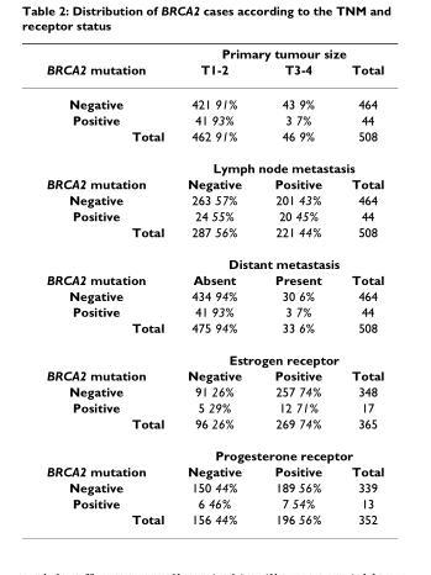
<table><thead><tr><td rowspan="2">BRCA2 mutation</td><td colspan="3">Primary tumour size</td></tr><tr><td>T1-2</td><td>T3-4</td><td>Total</td></tr></thead><tbody><tr><td>Negative</td><td>421 91%</td><td>43 9%</td><td>464</td></tr><tr><td>Positive</td><td>41 93%</td><td>3 7%</td><td>44</td></tr><tr><td rowspan="2">Total</td><td>462 91%</td><td>46 9%</td><td>508</td></tr><tr><td colspan="3">Lymph node metastasis</td></tr><tr><td>BRCA2 mutation</td><td>Negative</td><td>Positive</td><td>Total</td></tr><tr><td>Negative</td><td>263 57%</td><td>201 43%</td><td>464</td></tr><tr><td>Positive</td><td>24 55%</td><td>20 45%</td><td>44</td></tr><tr><td rowspan="2">Total</td><td>287 56%</td><td>221 44%</td><td>508</td></tr><tr><td colspan="3">Distant metastasis</td></tr><tr><td>BRCA2 mutation</td><td>Absent</td><td>Present</td><td>Total</td></tr><tr><td>Negative</td><td>434 94%</td><td>30 6%</td><td>464</td></tr><tr><td>Positive</td><td>41 93%</td><td>3 7%</td><td>44</td></tr><tr><td rowspan="2">Total</td><td>475 94%</td><td>33 6%</td><td>508</td></tr><tr><td colspan="3">Estrogen receptor</td></tr><tr><td>BRCA2 mutation</td><td>Negative</td><td>Positive</td><td>Total</td></tr><tr><td>Negative</td><td>91 26%</td><td>257 74%</td><td>348</td></tr><tr><td>Positive</td><td>5 29%</td><td>12 71%</td><td>17</td></tr><tr><td rowspan="2">Total</td><td>96 26%</td><td>269 74%</td><td>365</td></tr><tr><td colspan="3">Progesterone receptor</td></tr><tr><td>BRCA2 mutation</td><td>Negative</td><td>Positive</td><td>Total</td></tr><tr><td>Negative</td><td>150 44%</td><td>189 56%</td><td>339</td></tr><tr><td>Positive</td><td>6 46%</td><td>7 54%</td><td>13</td></tr><tr><td>Total</td><td>156 44%</td><td>196 56%</td><td>352</td></tr></tbody></table>